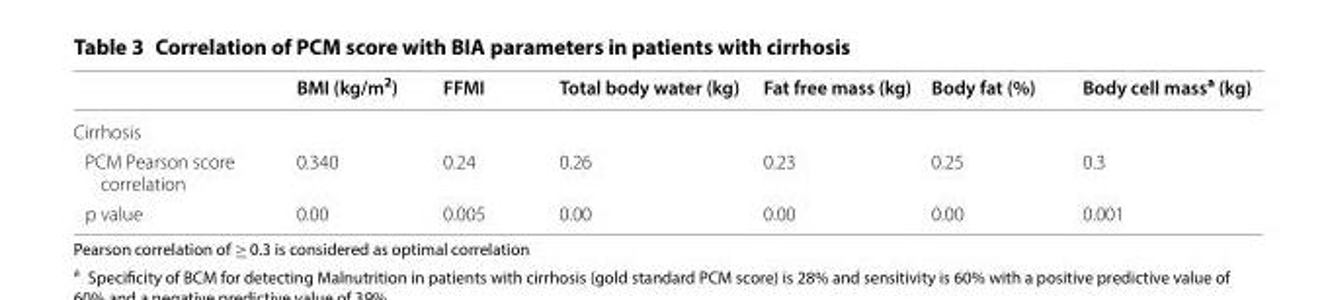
<table><thead><tr><td></td><td>BMI (kg/m<sup>2</sup>)</td><td>FFMI</td><td>Total body water (kg)</td><td>Fat free mass (kg)</td><td>Body fat (%)</td><td>Body cell mass<sup>a</sup> (kg)</td></tr></thead><tbody><tr><td colspan="7">Cirrhosis</td></tr><tr><td>PCM Pearson score correlation</td><td>0.340</td><td>0.24</td><td>0.26</td><td>0.23</td><td>0.25</td><td>0.3</td></tr><tr><td>p value</td><td>0.00</td><td>0.005</td><td>0.00</td><td>0.00</td><td>0.00</td><td>0.001</td></tr></tbody></table>